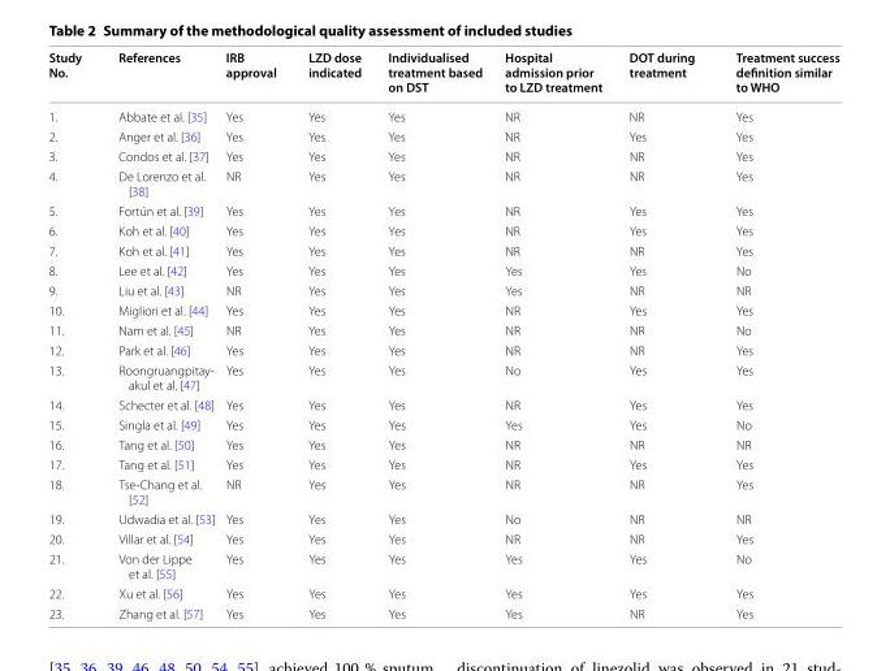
<table><thead><tr><td>Study No.</td><td>References</td><td>IRB approval</td><td>LZD dose indicated</td><td>Individualised treatment based on DST</td><td>Hospital admission prior to LZD treatment</td><td>DOT during treatment</td><td>Treatment success definition similar to WHO</td></tr></thead><tbody><tr><td>1.</td><td>Abbate et al. [35]</td><td>Yes</td><td>Yes</td><td>Yes</td><td>NR</td><td>NR</td><td>Yes</td></tr><tr><td>2.</td><td>Anger et al. [36]</td><td>Yes</td><td>Yes</td><td>Yes</td><td>NR</td><td>Yes</td><td>Yes</td></tr><tr><td>3.</td><td>Condos et al. [37]</td><td>Yes</td><td>Yes</td><td>Yes</td><td>NR</td><td>NR</td><td>Yes</td></tr><tr><td>4.</td><td>De Lorenzo et al. [38]</td><td>NR</td><td>Yes</td><td>Yes</td><td>NR</td><td>NR</td><td>Yes</td></tr><tr><td>5.</td><td>Fortún et al. [39]</td><td>Yes</td><td>Yes</td><td>Yes</td><td>NR</td><td>Yes</td><td>Yes</td></tr><tr><td>6.</td><td>Koh et al. [40]</td><td>Yes</td><td>Yes</td><td>Yes</td><td>NR</td><td>Yes</td><td>Yes</td></tr><tr><td>7.</td><td>Koh et al. [41]</td><td>Yes</td><td>Yes</td><td>Yes</td><td>NR</td><td>NR</td><td>Yes</td></tr><tr><td>8.</td><td>Lee et al. [42]</td><td>Yes</td><td>Yes</td><td>Yes</td><td>Yes</td><td>Yes</td><td>No</td></tr><tr><td>9.</td><td>Liu et al. [43]</td><td>NR</td><td>Yes</td><td>Yes</td><td>Yes</td><td>NR</td><td>NR</td></tr><tr><td>10.</td><td>Migliori et al. [44]</td><td>Yes</td><td>Yes</td><td>Yes</td><td>NR</td><td>Yes</td><td>Yes</td></tr><tr><td>11.</td><td>Nam et al. [45]</td><td>NR</td><td>Yes</td><td>Yes</td><td>NR</td><td>NR</td><td>No</td></tr><tr><td>12.</td><td>Park et al. [46]</td><td>Yes</td><td>Yes</td><td>Yes</td><td>NR</td><td>NR</td><td>Yes</td></tr><tr><td>13.</td><td>Roongruangpitay‑ akul et al. [47]</td><td>Yes</td><td>Yes</td><td>Yes</td><td>No</td><td>Yes</td><td>Yes</td></tr><tr><td>14.</td><td>Schecter et al. [48]</td><td>Yes</td><td>Yes</td><td>Yes</td><td>NR</td><td>Yes</td><td>Yes</td></tr><tr><td>15.</td><td>Singla et al. [49]</td><td>Yes</td><td>Yes</td><td>Yes</td><td>Yes</td><td>Yes</td><td>No</td></tr><tr><td>16.</td><td>Tang et al. [50]</td><td>Yes</td><td>Yes</td><td>Yes</td><td>NR</td><td>NR</td><td>NR</td></tr><tr><td>17.</td><td>Tang et al. [51]</td><td>Yes</td><td>Yes</td><td>Yes</td><td>NR</td><td>Yes</td><td>Yes</td></tr><tr><td>18.</td><td>Tse‑Chang et al. [52]</td><td>NR</td><td>Yes</td><td>Yes</td><td>NR</td><td>NR</td><td>Yes</td></tr><tr><td>19.</td><td>Udwadia et al. [53]</td><td>Yes</td><td>Yes</td><td>Yes</td><td>No</td><td>NR</td><td>NR</td></tr><tr><td>20.</td><td>Villar et al. [54]</td><td>Yes</td><td>Yes</td><td>Yes</td><td>NR</td><td>NR</td><td>Yes</td></tr><tr><td>21.</td><td>Von der Lippe et al. [55]</td><td>Yes</td><td>Yes</td><td>Yes</td><td>Yes</td><td>Yes</td><td>No</td></tr><tr><td>22.</td><td>Xu et al. [56]</td><td>Yes</td><td>Yes</td><td>Yes</td><td>Yes</td><td>Yes</td><td>Yes</td></tr><tr><td>23.</td><td>Zhang et al. [57]</td><td>Yes</td><td>Yes</td><td>Yes</td><td>Yes</td><td>NR</td><td>Yes</td></tr></tbody></table>